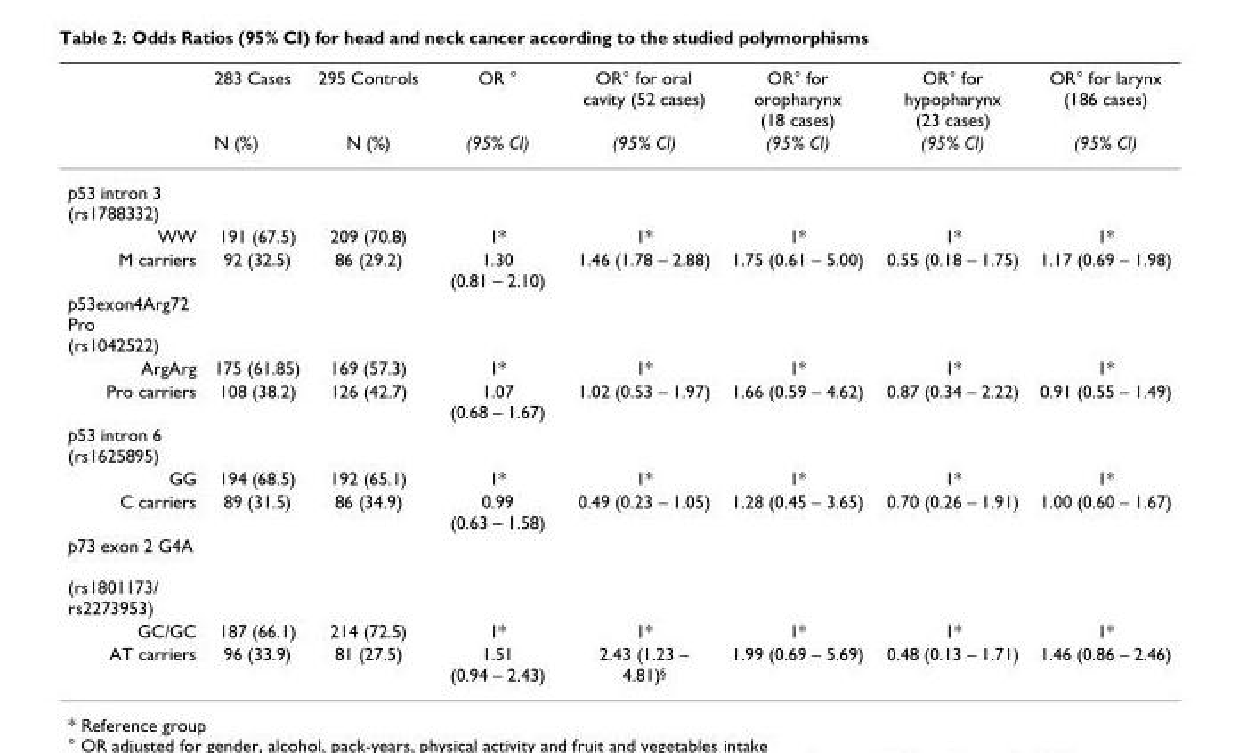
<table><thead><tr><td rowspan="2"></td><td rowspan="2">283 Cases N (%)</td><td rowspan="2">295 Controls N (%)</td><td rowspan="2">OR ° (95% CI)</td><td rowspan="2">OR° for oral cavity (52 cases) (95% CI)</td><td rowspan="2">OR° for oropharynx (18 cases) (95% CI)</td><td rowspan="2">OR° for hypopharynx (23 cases) (95% CI)</td><td rowspan="2">OR° for larynx (186 cases) (95% CI)</td></tr><tr></tr></thead><tbody><tr><td colspan="8">p53 intron 3 (rs1788332)</td></tr><tr><td>WW</td><td>191 (67.5)</td><td>209 (70.8)</td><td>1*</td><td>1*</td><td>1*</td><td>1*</td><td>1*</td></tr><tr><td>M carriers</td><td>92 (32.5)</td><td>86 (29.2)</td><td>1.30 (0.81 – 2.10)</td><td>1.46 (1.78 – 2.88)</td><td>1.75 (0.61 – 5.00)</td><td>0.55 (0.18 – 1.75)</td><td>1.17 (0.69 – 1.98)</td></tr><tr><td colspan="8">p53exon4Arg72 Pro (rs1042522)</td></tr><tr><td>ArgArg</td><td>175 (61.85)</td><td>169 (57.3)</td><td>1*</td><td>1*</td><td>1*</td><td>1*</td><td>1*</td></tr><tr><td>Pro carriers</td><td>108 (38.2)</td><td>126 (42.7)</td><td>1.07 (0.68 – 1.67)</td><td>1.02 (0.53 – 1.97)</td><td>1.66 (0.59 – 4.62)</td><td>0.87 (0.34 – 2.22)</td><td>0.91 (0.55 – 1.49)</td></tr><tr><td colspan="8">p53 intron 6 (rs1625895)</td></tr><tr><td>GG</td><td>194 (68.5)</td><td>192 (65.1)</td><td>1*</td><td>1*</td><td>1*</td><td>1*</td><td>1*</td></tr><tr><td>C carriers</td><td>89 (31.5)</td><td>86 (34.9)</td><td>0.99 (0.63 – 1.58)</td><td>0.49 (0.23 – 1.05)</td><td>1.28 (0.45 – 3.65)</td><td>0.70 (0.26 – 1.91)</td><td>1.00 (0.60 – 1.67)</td></tr><tr><td colspan="8">p73 exon 2 G4A (rs1801173/ rs2273953)</td></tr><tr><td>GC/GC</td><td>187 (66.1)</td><td>214 (72.5)</td><td>1*</td><td>1*</td><td>1*</td><td>1*</td><td>1*</td></tr><tr><td>AT carriers</td><td>96 (33.9)</td><td>81 (27.5)</td><td>1.51 (0.94 – 2.43)</td><td>2.43 (1.23 – 4.81)<sup>§</sup></td><td>1.99 (0.69 – 5.69)</td><td>0.48 (0.13 – 1.71)</td><td>1.46 (0.86 – 2.46)</td></tr></tbody></table>